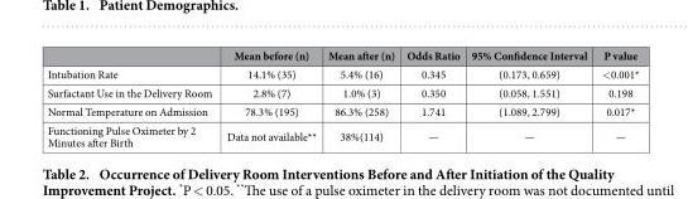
<table><thead><tr><td></td><td>Mean before (n)</td><td>Mean after (n)</td><td>Odds Ratio</td><td>95% Confidence Interval</td><td>P value</td></tr></thead><tbody><tr><td>Intubation Rate</td><td>14.1% (35)</td><td>5.4% (16)</td><td>0.345</td><td>(0.173, 0.659)</td><td>&lt; 0.001*</td></tr><tr><td>Surfactant Use in the Delivery Room</td><td>2.8% (7)</td><td>1.0% (3)</td><td>0.350</td><td>(0.058, 1.551)</td><td>0.198</td></tr><tr><td>Normal Temperature on Admission</td><td>78.3% (195)</td><td>86.3% (258)</td><td>1.741</td><td>(1.089, 2.799)</td><td>0.017*</td></tr><tr><td>Functioning Pulse Oximeter by 2 Minutes after Birth</td><td>Data not available**</td><td>38%(114)</td><td>—</td><td>—</td><td>—</td></tr></tbody></table>